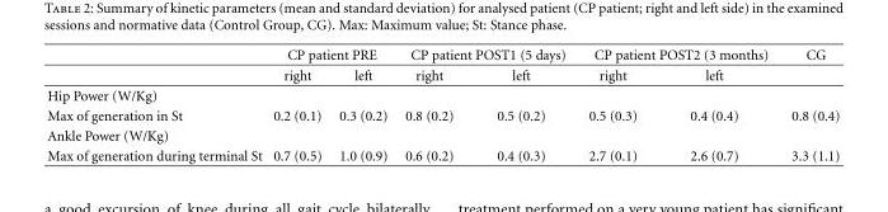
<table><thead><tr><td rowspan="2"></td><td colspan="2">CP patient PRE</td><td colspan="2">CP patient POST1 (5 days)</td><td colspan="2">CP patient POST2 (3 months)</td><td rowspan="2">CG</td></tr><tr><td>right</td><td>left</td><td>right</td><td>left</td><td>right</td><td>left</td></tr></thead><tbody><tr><td colspan="8">Hip Power (W/Kg)</td></tr><tr><td>Max of generation in St</td><td>0.2 (0.1)</td><td>0.3 (0.2)</td><td>0.8 (0.2)</td><td>0.5 (0.2)</td><td>0.5 (0.3)</td><td>0.4 (0.4)</td><td>0.8 (0.4)</td></tr><tr><td colspan="8">Ankle Power (W/Kg)</td></tr><tr><td>Max of generation during terminal St</td><td>0.7 (0.5)</td><td>1.0 (0.9)</td><td>0.6 (0.2)</td><td>0.4 (0.3)</td><td>2.7 (0.1)</td><td>2.6 (0.7)</td><td>3.3 (1.1)</td></tr></tbody></table>